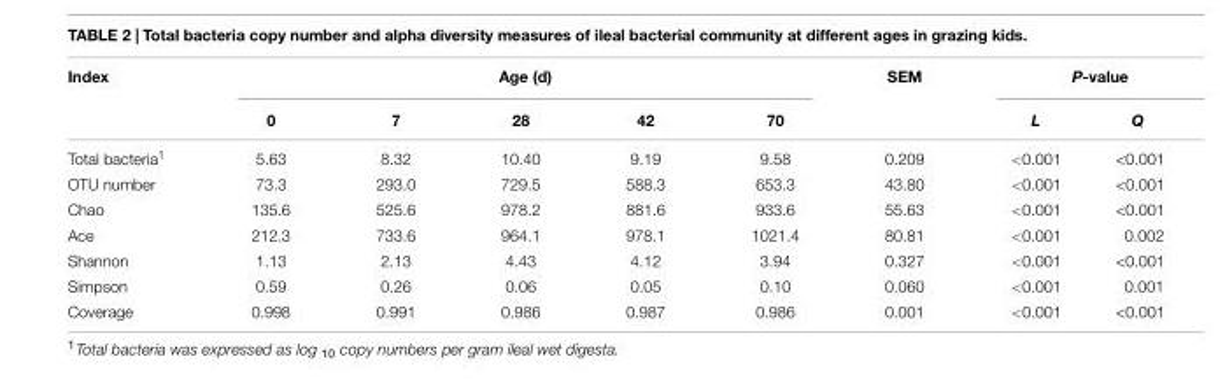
<table><thead><tr><td rowspan="2">Index</td><td colspan="5">Age (d)</td><td rowspan="2">SEM</td><td colspan="2">P-value</td></tr><tr><td>0</td><td>7</td><td>28</td><td>42</td><td>70</td><td>L</td><td>Q</td></tr></thead><tbody><tr><td>Total bacteria<sup>1</sup></td><td>5.63</td><td>8.32</td><td>10.40</td><td>9.19</td><td>9.58</td><td>0.209</td><td>&lt;0.001</td><td>&lt;0.001</td></tr><tr><td>OTU number</td><td>73.3</td><td>293.0</td><td>729.5</td><td>588.3</td><td>653.3</td><td>43.80</td><td>&lt;0.001</td><td>&lt;0.001</td></tr><tr><td>Chao</td><td>135.6</td><td>525.6</td><td>978.2</td><td>881.6</td><td>933.6</td><td>55.63</td><td>&lt;0.001</td><td>&lt;0.001</td></tr><tr><td>Ace</td><td>212.3</td><td>733.6</td><td>964.1</td><td>978.1</td><td>1021.4</td><td>80.81</td><td>&lt;0.001</td><td>0.002</td></tr><tr><td>Shannon</td><td>1.13</td><td>2.13</td><td>4.43</td><td>4.12</td><td>3.94</td><td>0.327</td><td>&lt;0.001</td><td>&lt;0.001</td></tr><tr><td>Simpson</td><td>0.59</td><td>0.26</td><td>0.06</td><td>0.05</td><td>0.10</td><td>0.060</td><td>&lt;0.001</td><td>0.001</td></tr><tr><td>Coverage</td><td>0.998</td><td>0.991</td><td>0.986</td><td>0.987</td><td>0.986</td><td>0.001</td><td>&lt;0.001</td><td>&lt;0.001</td></tr></tbody></table>